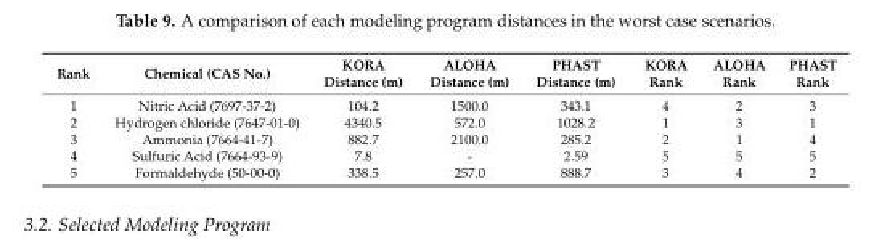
<table><thead><tr><td>Rank</td><td>Chemical (CAS No.)</td><td>KORA Distance (m)</td><td>ALOHA Distance (m)</td><td>PHAST Distance (m)</td><td>KORA Rank</td><td>ALOHA Rank</td><td>PHAST Rank</td></tr></thead><tbody><tr><td>1</td><td>Nitric Acid (7697-37-2)</td><td>104.2</td><td>1500.0</td><td>343.1</td><td>4</td><td>2</td><td>3</td></tr><tr><td>2</td><td>Hydrogen chloride (7647-01-0)</td><td>4340.5</td><td>572.0</td><td>1028.2</td><td>1</td><td>3</td><td>1</td></tr><tr><td>3</td><td>Ammonia (7664-41-7)</td><td>882.7</td><td>2100.0</td><td>285.2</td><td>2</td><td>1</td><td>4</td></tr><tr><td>4</td><td>Sulfuric Acid (7664-93-9)</td><td>7.8</td><td>-</td><td>2.59</td><td>5</td><td>5</td><td>5</td></tr><tr><td>5</td><td>Formaldehyde (50-00-0)</td><td>338.5</td><td>257.0</td><td>888.7</td><td>3</td><td>4</td><td>2</td></tr></tbody></table>